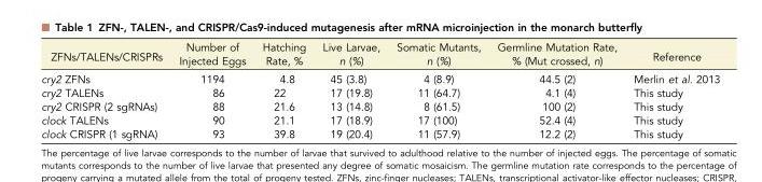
<table><thead><tr><td>ZFNs/TALENs/CRISPRs</td><td>Number of Injected Eggs</td><td>Hatching Rate, %</td><td>Live Larvae, n (%)</td><td>Somatic Mutants, n (%)</td><td>Germline Mutation Rate, % (Mut crossed, n)</td><td>Reference</td></tr></thead><tbody><tr><td>cry2 ZFNs</td><td>1194</td><td>4.8</td><td>45 (3.8)</td><td>4 (8.9)</td><td>44.5 (2)</td><td>Merlin et al. 2013</td></tr><tr><td>cry2 TALENs</td><td>86</td><td>22</td><td>17 (19.8)</td><td>11 (64.7)</td><td>4.1 (4)</td><td>This study</td></tr><tr><td>cry2 CRISPR (2 sgRNAs)</td><td>88</td><td>21.6</td><td>13 (14.8)</td><td>8 (61.5)</td><td>100 (2)</td><td>This study</td></tr><tr><td>clock TALENs</td><td>90</td><td>21.1</td><td>17 (18.9)</td><td>17 (100)</td><td>52.4 (4)</td><td>This study</td></tr><tr><td>clock CRISPR (1 sgRNA)</td><td>93</td><td>39.8</td><td>19 (20.4)</td><td>11 (57.9)</td><td>12.2 (2)</td><td>This study</td></tr></tbody></table>